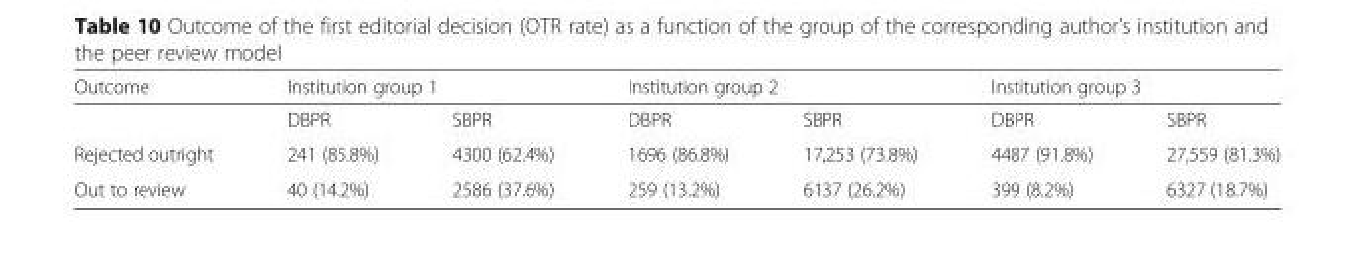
<table><thead><tr><td rowspan="2">Outcome</td><td colspan="2">Institution group 1</td><td colspan="2">Institution group 2</td><td colspan="2">Institution group 3</td></tr><tr><td>DBPR</td><td>SBPR</td><td>DBPR</td><td>SBPR</td><td>DBPR</td><td>SBPR</td></tr></thead><tbody><tr><td>Rejected outright</td><td>241 (85.8%)</td><td>4300 (62.4%)</td><td>1696 (86.8%)</td><td>17,253 (73.8%)</td><td>4487 (91.8%)</td><td>27,559 (81.3%)</td></tr><tr><td>Out to review</td><td>40 (14.2%)</td><td>2586 (37.6%)</td><td>259 (13.2%)</td><td>6137 (26.2%)</td><td>399 (8.2%)</td><td>6327 (18.7%)</td></tr></tbody></table>